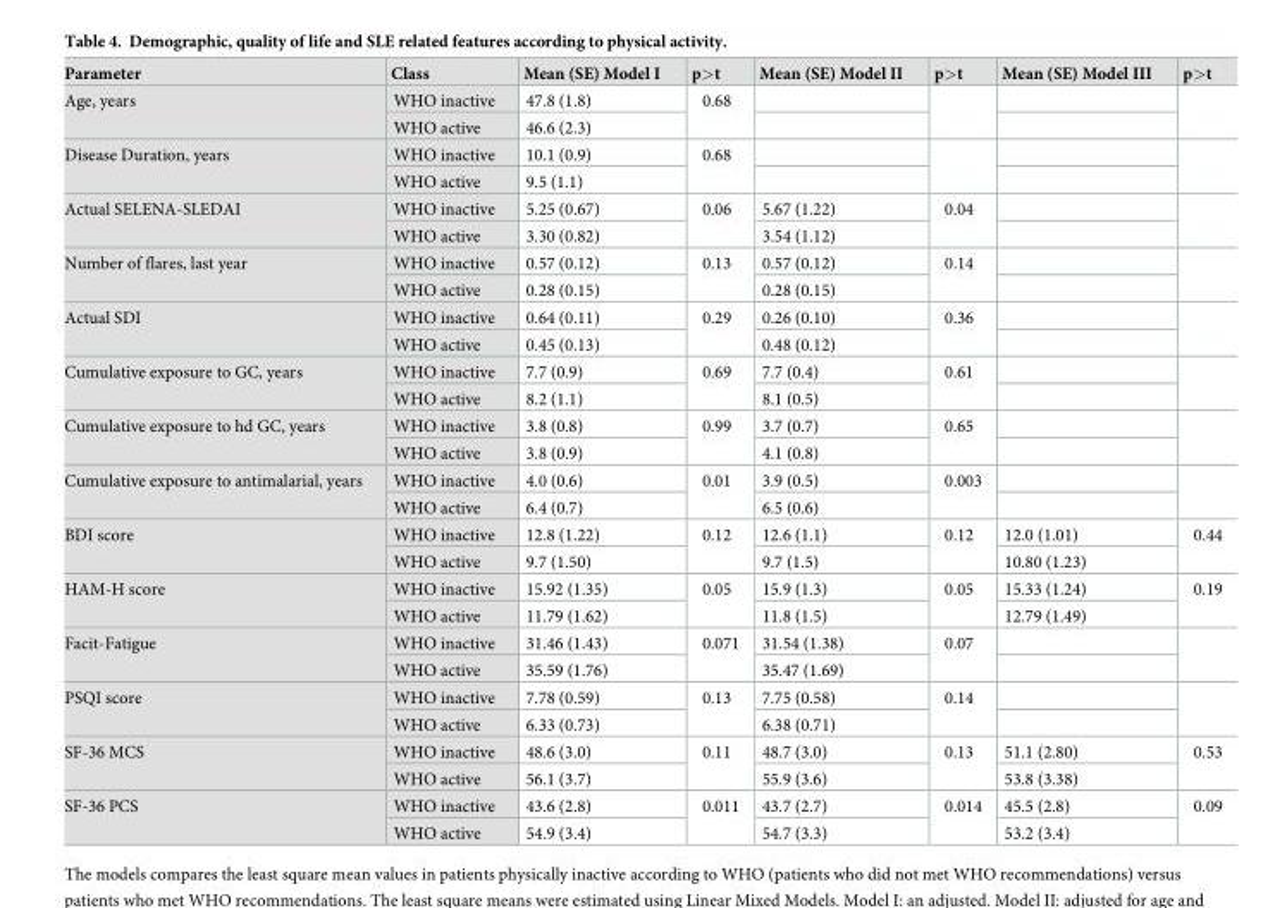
<table><thead><tr><td>Parameter</td><td>Class</td><td>Mean (SE) Model I</td><td>p&gt;t</td><td>Mean (SE) Model II</td><td>p&gt;t</td><td>Mean (SE) Model III</td><td>p&gt;t</td></tr></thead><tbody><tr><td rowspan="2">Age, years</td><td>WHO inactive</td><td>47.8 (1.8)</td><td rowspan="2">0.68</td><td></td><td rowspan="2"></td><td></td><td rowspan="2"></td></tr><tr><td>WHO active</td><td>46.6 (2.3)</td><td></td><td></td></tr><tr><td rowspan="2">Disease Duration, years</td><td>WHO inactive</td><td>10.1 (0.9)</td><td rowspan="2">0.68</td><td></td><td rowspan="2"></td><td></td><td rowspan="2"></td></tr><tr><td>WHO active</td><td>9.5 (1.1)</td><td></td><td></td></tr><tr><td rowspan="2">Actual SELENA-SLEDAI</td><td>WHO inactive</td><td>5.25 (0.67)</td><td rowspan="2">0.06</td><td>5.67 (1.22)</td><td rowspan="2">0.04</td><td></td><td rowspan="2"></td></tr><tr><td>WHO active</td><td>3.30 (0.82)</td><td>3.54 (1.12)</td><td></td></tr><tr><td rowspan="2">Number of flares, last year</td><td>WHO inactive</td><td>0.57 (0.12)</td><td rowspan="2">0.13</td><td>0.57 (0.12)</td><td rowspan="2">0.14</td><td></td><td rowspan="2"></td></tr><tr><td>WHO active</td><td>0.28 (0.15)</td><td>0.28 (0.15)</td><td></td></tr><tr><td rowspan="2">Actual SDI</td><td>WHO inactive</td><td>0.64 (0.11)</td><td rowspan="2">0.29</td><td>0.26 (0.10)</td><td rowspan="2">0.36</td><td></td><td rowspan="2"></td></tr><tr><td>WHO active</td><td>0.45 (0.13)</td><td>0.48 (0.12)</td><td></td></tr><tr><td rowspan="2">Cumulative exposure to GC, years</td><td>WHO inactive</td><td>7.7 (0.9)</td><td rowspan="2">0.69</td><td>7.7 (0.4)</td><td rowspan="2">0.61</td><td></td><td rowspan="2"></td></tr><tr><td>WHO active</td><td>8.2 (1.1)</td><td>8.1 (0.5)</td><td></td></tr><tr><td rowspan="2">Cumulative exposure to hd GC, years</td><td>WHO inactive</td><td>3.8 (0.8)</td><td rowspan="2">0.99</td><td>3.7 (0.7)</td><td rowspan="2">0.65</td><td></td><td rowspan="2"></td></tr><tr><td>WHO active</td><td>3.8 (0.9)</td><td>4.1 (0.8)</td><td></td></tr><tr><td rowspan="2">Cumulative exposure to antimalarial, years</td><td>WHO inactive</td><td>4.0 (0.6)</td><td rowspan="2">0.01</td><td>3.9 (0.5)</td><td rowspan="2">0.003</td><td></td><td rowspan="2"></td></tr><tr><td>WHO active</td><td>6.4 (0.7)</td><td>6.5 (0.6)</td><td></td></tr><tr><td rowspan="2">BDI score</td><td>WHO inactive</td><td>12.8 (1.22)</td><td rowspan="2">0.12</td><td>12.6 (1.1)</td><td rowspan="2">0.12</td><td>12.0 (1.01)</td><td rowspan="2">0.44</td></tr><tr><td>WHO active</td><td>9.7 (1.50)</td><td>9.7 (1.5)</td><td>10.80 (1.23)</td></tr><tr><td rowspan="2">HAM-H score</td><td>WHO inactive</td><td>15.92 (1.35)</td><td rowspan="2">0.05</td><td>15.9 (1.3)</td><td rowspan="2">0.05</td><td>15.33 (1.24)</td><td rowspan="2">0.19</td></tr><tr><td>WHO active</td><td>11.79 (1.62)</td><td>11.8 (1.5)</td><td>12.79 (1.49)</td></tr><tr><td rowspan="2">Facit-Fatigue</td><td>WHO inactive</td><td>31.46 (1.43)</td><td rowspan="2">0.071</td><td>31.54 (1.38)</td><td rowspan="2">0.07</td><td></td><td rowspan="2"></td></tr><tr><td>WHO active</td><td>35.59 (1.76)</td><td>35.47 (1.69)</td><td></td></tr><tr><td rowspan="2">PSQI score</td><td>WHO inactive</td><td>7.78 (0.59)</td><td rowspan="2">0.13</td><td>7.75 (0.58)</td><td rowspan="2">0.14</td><td></td><td rowspan="2"></td></tr><tr><td>WHO active</td><td>6.33 (0.73)</td><td>6.38 (0.71)</td><td></td></tr><tr><td rowspan="2">SF-36 MCS</td><td>WHO inactive</td><td>48.6 (3.0)</td><td rowspan="2">0.11</td><td>48.7 (3.0)</td><td rowspan="2">0.13</td><td>51.1 (2.80)</td><td rowspan="2">0.53</td></tr><tr><td>WHO active</td><td>56.1 (3.7)</td><td>55.9 (3.6)</td><td>53.8 (3.38)</td></tr><tr><td rowspan="2">SF-36 PCS</td><td>WHO inactive</td><td>43.6 (2.8)</td><td rowspan="2">0.011</td><td>43.7 (2.7)</td><td rowspan="2">0.014</td><td>45.5 (2.8)</td><td rowspan="2">0.09</td></tr><tr><td>WHO active</td><td>54.9 (3.4)</td><td>54.7 (3.3)</td><td>53.2 (3.4)</td></tr></tbody></table>